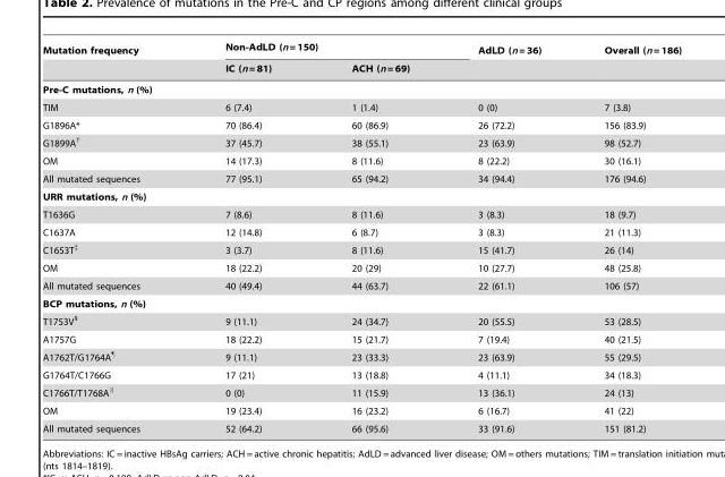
<table><thead><tr><td rowspan="2">Mutation frequency</td><td colspan="2">Non-AdLD (n = 150)</td><td rowspan="2">AdLD (n = 36)</td><td rowspan="2">Overall (n = 186)</td></tr><tr><td>IC (n = 81)</td><td>ACH (n = 69)</td></tr></thead><tbody><tr><td colspan="5">Pre-C mutations, n (%)</td></tr><tr><td>TIM</td><td>6 (7.4)</td><td>1 (1.4)</td><td>0 (0)</td><td>7 (3.8)</td></tr><tr><td>G1896A*</td><td>70 (86.4)</td><td>60 (86.9)</td><td>26 (72.2)</td><td>156 (83.9)</td></tr><tr><td>G1899A†</td><td>37 (45.7)</td><td>38 (55.1)</td><td>23 (63.9)</td><td>98 (52.7)</td></tr><tr><td>OM</td><td>14 (17.3)</td><td>8 (11.6)</td><td>8 (22.2)</td><td>30 (16.1)</td></tr><tr><td>All mutated sequences</td><td>77 (95.1)</td><td>65 (94.2)</td><td>34 (94.4)</td><td>176 (94.6)</td></tr><tr><td colspan="5">URR mutations, n (%)</td></tr><tr><td>T1636G</td><td>7 (8.6)</td><td>8 (11.6)</td><td>3 (8.3)</td><td>18 (9.7)</td></tr><tr><td>C1637A</td><td>12 (14.8)</td><td>6 (8.7)</td><td>3 (8.3)</td><td>21 (11.3)</td></tr><tr><td>C1653T‡</td><td>3 (3.7)</td><td>8 (11.6)</td><td>15 (41.7)</td><td>26 (14)</td></tr><tr><td>OM</td><td>18 (22.2)</td><td>20 (29)</td><td>10 (27.7)</td><td>48 (25.8)</td></tr><tr><td>All mutated sequences</td><td>40 (49.4)</td><td>44 (63.7)</td><td>22 (61.1)</td><td>106 (57)</td></tr><tr><td colspan="5">BCP mutations, n (%)</td></tr><tr><td>T1753V§</td><td>9 (11.1)</td><td>24 (34.7)</td><td>20 (55.5)</td><td>53 (28.5)</td></tr><tr><td>A1757G</td><td>18 (22.2)</td><td>15 (21.7)</td><td>7 (19.4)</td><td>40 (21.5)</td></tr><tr><td>A1762T/G1764A¶</td><td>9 (11.1)</td><td>23 (33.3)</td><td>23 (63.9)</td><td>55 (29.5)</td></tr><tr><td>G1764T/C1766G</td><td>17 (21)</td><td>13 (18.8)</td><td>4 (11.1)</td><td>34 (18.3)</td></tr><tr><td>C1766T/T1768A<sup>∥</sup></td><td>0 (0)</td><td>11 (15.9)</td><td>13 (36.1)</td><td>24 (13)</td></tr><tr><td>OM</td><td>19 (23.4)</td><td>16 (23.2)</td><td>6 (16.7)</td><td>41 (22)</td></tr><tr><td>All mutated sequences</td><td>52 (64.2)</td><td>66 (95.6)</td><td>33 (91.6)</td><td>151 (81.2)</td></tr></tbody></table>